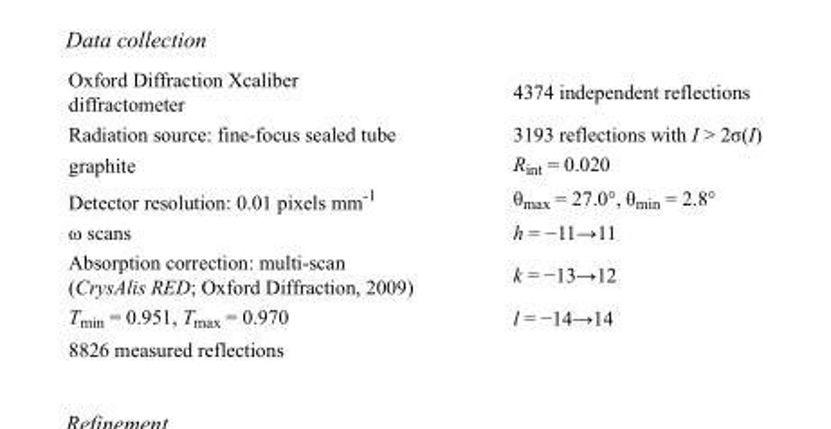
<table><tbody><tr><td>Oxford Diffraction Xcaliber diffractometer</td><td>4374 independent reflections</td></tr><tr><td>Radiation source: fine-focus sealed tube</td><td>3193 reflections with I &gt; 2σ(I)</td></tr><tr><td>graphite</td><td>R<sub>int</sub> = 0.020</td></tr><tr><td>Detector resolution: 0.01 pixels mm<sup>-1</sup></td><td>θ<sub>max</sub> = 27.0°, θ<sub>min</sub> = 2.8°</td></tr><tr><td>ω scans</td><td>h = −11→11</td></tr><tr><td>Absorption correction: multi-scan (CrysAlis RED; Oxford Diffraction, 2009)</td><td>k = −13→12</td></tr><tr><td>T<sub>min</sub> = 0.951, T<sub>max</sub> = 0.970</td><td>l = −14→14</td></tr><tr><td>8826 measured reflections</td><td></td></tr></tbody></table>